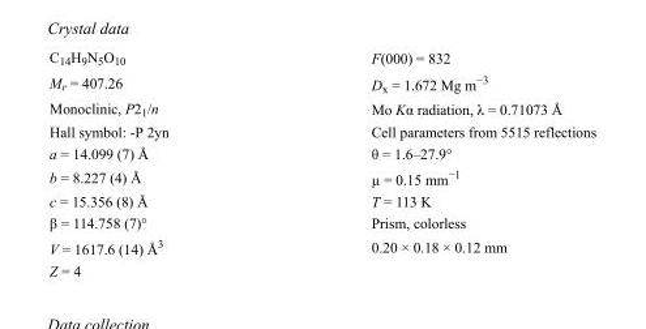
<table><tbody><tr><td>C<sub>14</sub>H<sub>9</sub>N<sub>5</sub>O<sub>10</sub></td><td>F(000) = 832</td></tr><tr><td>M<sub>r</sub> = 407.26</td><td>D<sub>x</sub> = 1.672 Mg m<sup>−3</sup></td></tr><tr><td>Monoclinic, P2<sub>1</sub>/n</td><td>Mo Kα radiation, λ = 0.71073 Å</td></tr><tr><td>Hall symbol: -P 2yn</td><td>Cell parameters from 5515 reflections</td></tr><tr><td>a = 14.099 (7) Å</td><td>θ = 1.6–27.9°</td></tr><tr><td>b = 8.227 (4) Å</td><td>µ = 0.15 mm<sup>−1</sup></td></tr><tr><td>c = 15.356 (8) Å</td><td>T = 113 K</td></tr><tr><td>β = 114.758 (7)°</td><td>Prism, colorless</td></tr><tr><td>V = 1617.6 (14) Å<sup>3</sup></td><td>0.20 × 0.18 × 0.12 mm</td></tr><tr><td>Z = 4</td><td></td></tr></tbody></table>